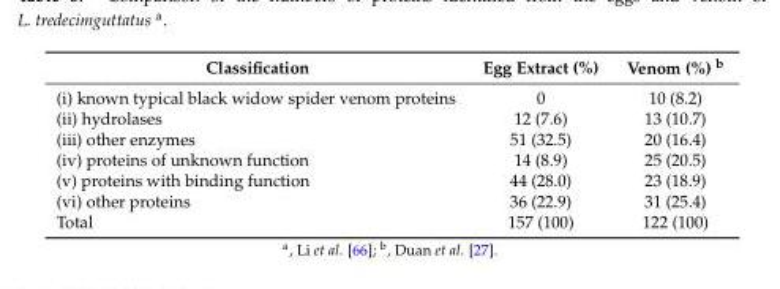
<table><thead><tr><td>Classification</td><td>Egg Extract (%)</td><td>Venom (%) <sup>b</sup></td></tr></thead><tbody><tr><td>(i) known typical black widow spider venom proteins</td><td>0</td><td>10 (8.2)</td></tr><tr><td>(ii) hydrolases</td><td>12 (7.6)</td><td>13 (10.7)</td></tr><tr><td>(iii) other enzymes</td><td>51 (32.5)</td><td>20 (16.4)</td></tr><tr><td>(iv) proteins of unknown function</td><td>14 (8.9)</td><td>25 (20.5)</td></tr><tr><td>(v) proteins with binding function</td><td>44 (28.0)</td><td>23 (18.9)</td></tr><tr><td>(vi) other proteins</td><td>36 (22.9)</td><td>31 (25.4)</td></tr><tr><td>Total</td><td>157 (100)</td><td>122 (100)</td></tr></tbody></table>